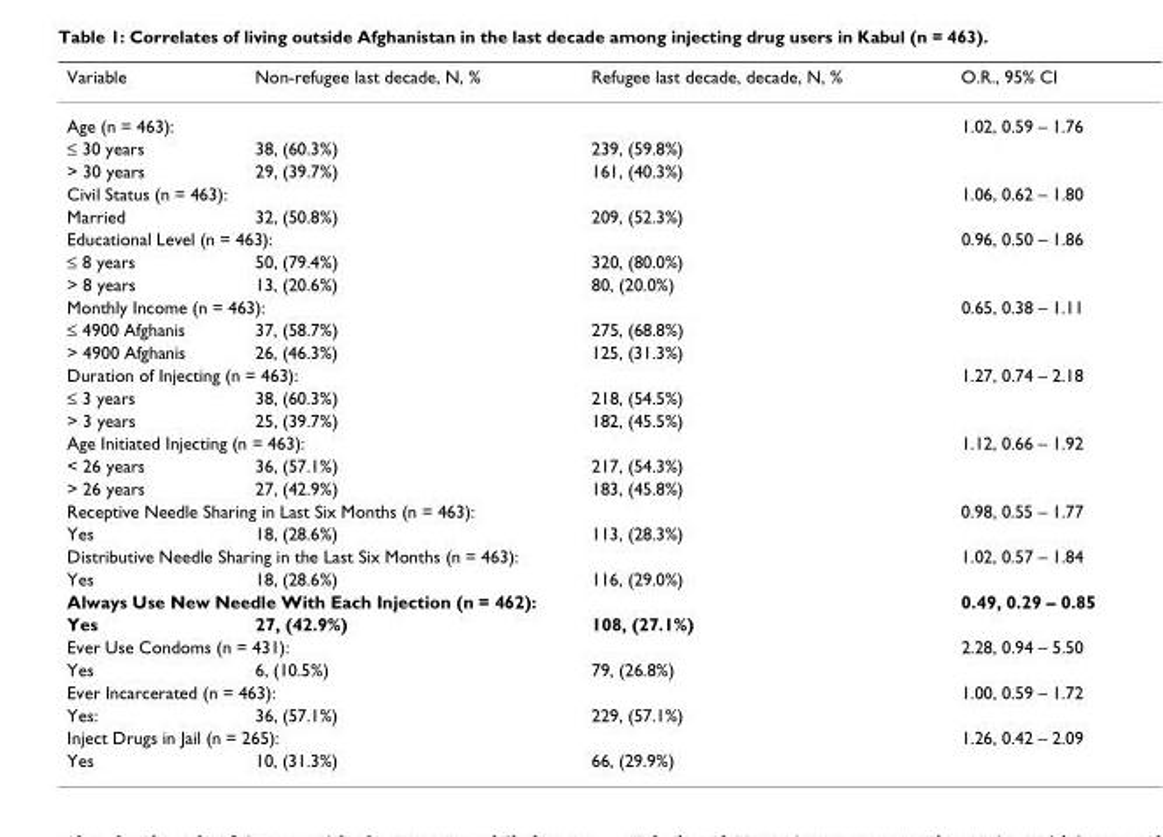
<table><thead><tr><td>Variable</td><td>Non-refugee last decade, N, %</td><td>Refugee last decade, decade, N, %</td><td>O.R., 95% CI</td></tr></thead><tbody><tr><td colspan="3">Age (n = 463):</td><td>1.02, 0.59 – 1.76</td></tr><tr><td>≤ 30 years</td><td>38, (60.3%)</td><td>239, (59.8%)</td><td></td></tr><tr><td>&gt; 30 years</td><td>29, (39.7%)</td><td>161, (40.3%)</td><td></td></tr><tr><td colspan="3">Civil Status (n = 463):</td><td>1.06, 0.62 – 1.80</td></tr><tr><td>Married</td><td>32, (50.8%)</td><td>209, (52.3%)</td><td></td></tr><tr><td colspan="3">Educational Level (n = 463):</td><td>0.96, 0.50 – 1.86</td></tr><tr><td>≤ 8 years</td><td>50, (79.4%)</td><td>320, (80.0%)</td><td></td></tr><tr><td>&gt; 8 years</td><td>13, (20.6%)</td><td>80, (20.0%)</td><td></td></tr><tr><td colspan="3">Monthly Income (n = 463):</td><td>0.65, 0.38 – 1.11</td></tr><tr><td>≤ 4900 Afghanis</td><td>37, (58.7%)</td><td>275, (68.8%)</td><td></td></tr><tr><td>&gt; 4900 Afghanis</td><td>26, (46.3%)</td><td>125, (31.3%)</td><td></td></tr><tr><td colspan="3">Duration of Injecting (n = 463):</td><td>1.27, 0.74 – 2.18</td></tr><tr><td>≤ 3 years</td><td>38, (60.3%)</td><td>218, (54.5%)</td><td></td></tr><tr><td>&gt; 3 years</td><td>25, (39.7%)</td><td>182, (45.5%)</td><td></td></tr><tr><td colspan="3">Age Initiated Injecting (n = 463):</td><td>1.12, 0.66 – 1.92</td></tr><tr><td>&lt; 26 years</td><td>36, (57.1%)</td><td>217, (54.3%)</td><td></td></tr><tr><td>&gt; 26 years</td><td>27, (42.9%)</td><td>183, (45.8%)</td><td></td></tr><tr><td colspan="3">Receptive Needle Sharing in Last Six Months (n = 463):</td><td>0.98, 0.55 – 1.77</td></tr><tr><td>Yes</td><td>18, (28.6%)</td><td>113, (28.3%)</td><td></td></tr><tr><td colspan="3">Distributive Needle Sharing in the Last Six Months (n = 463):</td><td>1.02, 0.57 – 1.84</td></tr><tr><td>Yes</td><td>18, (28.6%)</td><td>116, (29.0%)</td><td></td></tr><tr><td colspan="3">Always Use New Needle With Each Injection (n = 462):</td><td>0.49, 0.29 – 0.85</td></tr><tr><td>Yes</td><td>27, (42.9%)</td><td>108, (27.1%)</td><td></td></tr><tr><td colspan="3">Ever Use Condoms (n = 431):</td><td>2.28, 0.94 – 5.50</td></tr><tr><td>Yes</td><td>6, (10.5%)</td><td>79, (26.8%)</td><td></td></tr><tr><td colspan="3">Ever Incarcerated (n = 463):</td><td>1.00, 0.59 – 1.72</td></tr><tr><td>Yes:</td><td>36, (57.1%)</td><td>229, (57.1%)</td><td></td></tr><tr><td colspan="3">Inject Drugs in Jail (n = 265):</td><td>1.26, 0.42 – 2.09</td></tr><tr><td>Yes</td><td>10, (31.3%)</td><td>66, (29.9%)</td><td></td></tr></tbody></table>